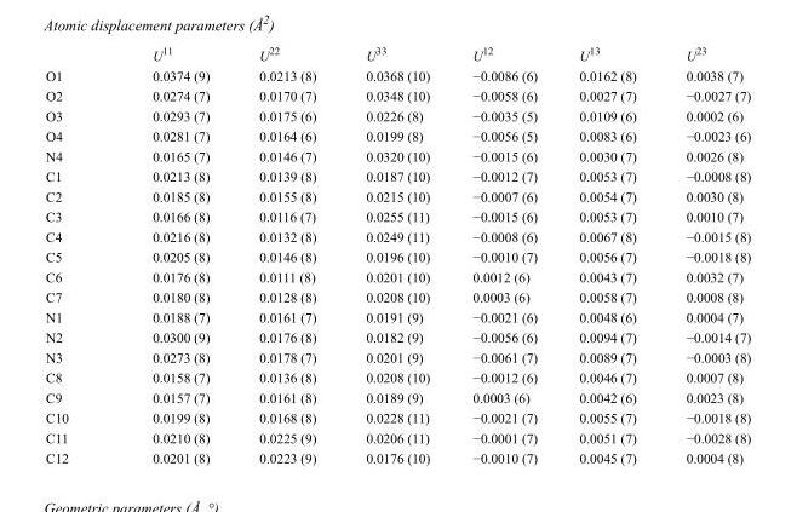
<table><thead><tr><td></td><td>U<sup>11</sup></td><td>U<sup>22</sup></td><td>U<sup>33</sup></td><td>U<sup>12</sup></td><td>U<sup>13</sup></td><td>U<sup>23</sup></td></tr></thead><tbody><tr><td>O1</td><td>0.0374 (9)</td><td>0.0213 (8)</td><td>0.0368 (10)</td><td>−0.0086 (6)</td><td>0.0162 (8)</td><td>0.0038 (7)</td></tr><tr><td>O2</td><td>0.0274 (7)</td><td>0.0170 (7)</td><td>0.0348 (10)</td><td>−0.0058 (6)</td><td>0.0027 (7)</td><td>−0.0027 (7)</td></tr><tr><td>O3</td><td>0.0293 (7)</td><td>0.0175 (6)</td><td>0.0226 (8)</td><td>−0.0035 (5)</td><td>0.0109 (6)</td><td>0.0002 (6)</td></tr><tr><td>O4</td><td>0.0281 (7)</td><td>0.0164 (6)</td><td>0.0199 (8)</td><td>−0.0056 (5)</td><td>0.0083 (6)</td><td>−0.0023 (6)</td></tr><tr><td>N4</td><td>0.0165 (7)</td><td>0.0146 (7)</td><td>0.0320 (10)</td><td>−0.0015 (6)</td><td>0.0030 (7)</td><td>0.0026 (8)</td></tr><tr><td>C1</td><td>0.0213 (8)</td><td>0.0139 (8)</td><td>0.0187 (10)</td><td>−0.0012 (7)</td><td>0.0053 (7)</td><td>−0.0008 (8)</td></tr><tr><td>C2</td><td>0.0185 (8)</td><td>0.0155 (8)</td><td>0.0215 (10)</td><td>−0.0007 (6)</td><td>0.0054 (7)</td><td>0.0030 (8)</td></tr><tr><td>C3</td><td>0.0166 (8)</td><td>0.0116 (7)</td><td>0.0255 (11)</td><td>−0.0015 (6)</td><td>0.0053 (7)</td><td>0.0010 (7)</td></tr><tr><td>C4</td><td>0.0216 (8)</td><td>0.0132 (8)</td><td>0.0249 (11)</td><td>−0.0008 (6)</td><td>0.0067 (8)</td><td>−0.0015 (8)</td></tr><tr><td>C5</td><td>0.0205 (8)</td><td>0.0146 (8)</td><td>0.0196 (10)</td><td>−0.0010 (7)</td><td>0.0056 (7)</td><td>−0.0018 (8)</td></tr><tr><td>C6</td><td>0.0176 (8)</td><td>0.0111 (8)</td><td>0.0201 (10)</td><td>0.0012 (6)</td><td>0.0043 (7)</td><td>0.0032 (7)</td></tr><tr><td>C7</td><td>0.0180 (8)</td><td>0.0128 (8)</td><td>0.0208 (10)</td><td>0.0003 (6)</td><td>0.0058 (7)</td><td>0.0008 (8)</td></tr><tr><td>N1</td><td>0.0188 (7)</td><td>0.0161 (7)</td><td>0.0191 (9)</td><td>−0.0021 (6)</td><td>0.0048 (6)</td><td>0.0004 (7)</td></tr><tr><td>N2</td><td>0.0300 (9)</td><td>0.0176 (8)</td><td>0.0182 (9)</td><td>−0.0056 (6)</td><td>0.0094 (7)</td><td>−0.0014 (7)</td></tr><tr><td>N3</td><td>0.0273 (8)</td><td>0.0178 (7)</td><td>0.0201 (9)</td><td>−0.0061 (7)</td><td>0.0089 (7)</td><td>−0.0003 (8)</td></tr><tr><td>C8</td><td>0.0158 (7)</td><td>0.0136 (8)</td><td>0.0208 (10)</td><td>−0.0012 (6)</td><td>0.0046 (7)</td><td>0.0007 (8)</td></tr><tr><td>C9</td><td>0.0157 (7)</td><td>0.0161 (8)</td><td>0.0189 (9)</td><td>0.0003 (6)</td><td>0.0042 (6)</td><td>0.0023 (8)</td></tr><tr><td>C10</td><td>0.0199 (8)</td><td>0.0168 (8)</td><td>0.0228 (11)</td><td>−0.0021 (7)</td><td>0.0055 (7)</td><td>−0.0018 (8)</td></tr><tr><td>C11</td><td>0.0210 (8)</td><td>0.0225 (9)</td><td>0.0206 (11)</td><td>−0.0001 (7)</td><td>0.0051 (7)</td><td>−0.0028 (8)</td></tr><tr><td>C12</td><td>0.0201 (8)</td><td>0.0223 (9)</td><td>0.0176 (10)</td><td>−0.0010 (7)</td><td>0.0045 (7)</td><td>0.0004 (8)</td></tr></tbody></table>